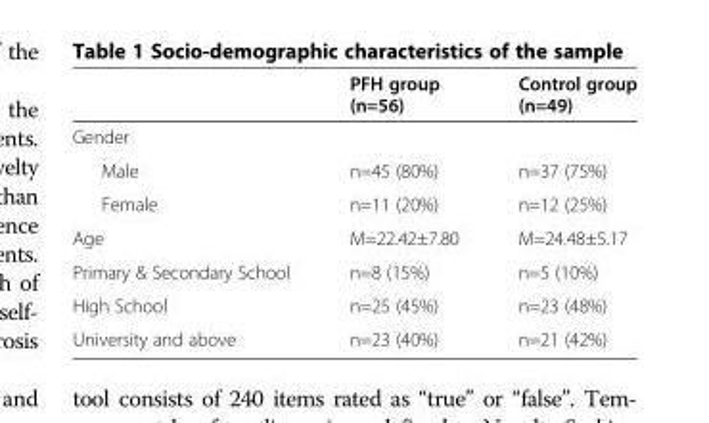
<table><thead><tr><td></td><td>PFH group (n=56)</td><td>Control group (n=49)</td></tr></thead><tbody><tr><td colspan="3">Gender</td></tr><tr><td>Male</td><td>n=45 (80%)</td><td>n=37 (75%)</td></tr><tr><td>Female</td><td>n=11 (20%)</td><td>n=12 (25%)</td></tr><tr><td>Age</td><td>M=22.42±7.80</td><td>M=24.48±5.17</td></tr><tr><td>Primary &amp; Secondary School</td><td>n=8 (15%)</td><td>n=5 (10%)</td></tr><tr><td>High School</td><td>n=25 (45%)</td><td>n=23 (48%)</td></tr><tr><td>University and above</td><td>n=23 (40%)</td><td>n=21 (42%)</td></tr></tbody></table>